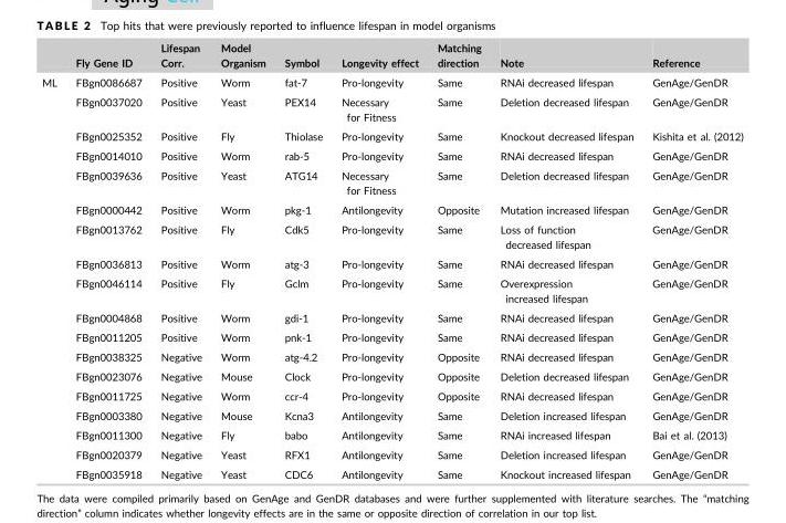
<table><thead><tr><td></td><td>Fly Gene ID</td><td>Lifespan Corr.</td><td>Model Organism</td><td>Symbol</td><td>Longevity effect</td><td>Matching direction</td><td>Note</td><td>Reference</td></tr></thead><tbody><tr><td rowspan="18">ML</td><td>FBgn0086687</td><td>Positive</td><td>Worm</td><td>fat-7</td><td>Pro-longevity</td><td>Same</td><td>RNAi decreased lifespan</td><td>GenAge/GenDR</td></tr><tr><td>FBgn0037020</td><td>Positive</td><td>Yeast</td><td>PEX14</td><td>Necessary for Fitness</td><td>Same</td><td>Deletion decreased lifespan</td><td>GenAge/GenDR</td></tr><tr><td>FBgn0025352</td><td>Positive</td><td>Fly</td><td>Thiolase</td><td>Pro-longevity</td><td>Same</td><td>Knockout decreased lifespan</td><td>Kishita et al. (2012)</td></tr><tr><td>FBgn0014010</td><td>Positive</td><td>Worm</td><td>rab-5</td><td>Pro-longevity</td><td>Same</td><td>RNAi decreased lifespan</td><td>GenAge/GenDR</td></tr><tr><td>FBgn0039636</td><td>Positive</td><td>Yeast</td><td>ATG14</td><td>Necessary for Fitness</td><td>Same</td><td>Deletion decreased lifespan</td><td>GenAge/GenDR</td></tr><tr><td>FBgn0000442</td><td>Positive</td><td>Worm</td><td>pkg-1</td><td>Antilongevity</td><td>Opposite</td><td>Mutation increased lifespan</td><td>GenAge/GenDR</td></tr><tr><td>FBgn0013762</td><td>Positive</td><td>Fly</td><td>Cdk5</td><td>Pro-longevity</td><td>Same</td><td>Loss of function decreased lifespan</td><td>GenAge/GenDR</td></tr><tr><td>FBgn0036813</td><td>Positive</td><td>Worm</td><td>atg-3</td><td>Pro-longevity</td><td>Same</td><td>RNAi decreased lifespan</td><td>GenAge/GenDR</td></tr><tr><td>FBgn0046114</td><td>Positive</td><td>Fly</td><td>Gclm</td><td>Pro-longevity</td><td>Same</td><td>Overexpression increased lifespan</td><td>GenAge/GenDR</td></tr><tr><td>FBgn0004868</td><td>Positive</td><td>Worm</td><td>gdi-1</td><td>Pro-longevity</td><td>Same</td><td>RNAi decreased lifespan</td><td>GenAge/GenDR</td></tr><tr><td>FBgn0011205</td><td>Positive</td><td>Worm</td><td>pnk-1</td><td>Pro-longevity</td><td>Same</td><td>RNAi decreased lifespan</td><td>GenAge/GenDR</td></tr><tr><td>FBgn0038325</td><td>Negative</td><td>Worm</td><td>atg-4.2</td><td>Pro-longevity</td><td>Opposite</td><td>RNAi decreased lifespan</td><td>GenAge/GenDR</td></tr><tr><td>FBgn0023076</td><td>Negative</td><td>Mouse</td><td>Clock</td><td>Pro-longevity</td><td>Opposite</td><td>Deletion decreased lifespan</td><td>GenAge/GenDR</td></tr><tr><td>FBgn0011725</td><td>Negative</td><td>Worm</td><td>ccr-4</td><td>Pro-longevity</td><td>Opposite</td><td>RNAi decreased lifespan</td><td>GenAge/GenDR</td></tr><tr><td>FBgn0003380</td><td>Negative</td><td>Mouse</td><td>Kcna3</td><td>Antilongevity</td><td>Same</td><td>Deletion increased lifespan</td><td>GenAge/GenDR</td></tr><tr><td>FBgn0011300</td><td>Negative</td><td>Fly</td><td>babo</td><td>Antilongevity</td><td>Same</td><td>RNAi increased lifespan</td><td>Bai et al. (2013)</td></tr><tr><td>FBgn0020379</td><td>Negative</td><td>Yeast</td><td>RFX1</td><td>Antilongevity</td><td>Same</td><td>Deletion increased lifespan</td><td>GenAge/GenDR</td></tr><tr><td>FBgn0035918</td><td>Negative</td><td>Yeast</td><td>CDC6</td><td>Antilongevity</td><td>Same</td><td>Knockout increased lifespan</td><td>GenAge/GenDR</td></tr></tbody></table>